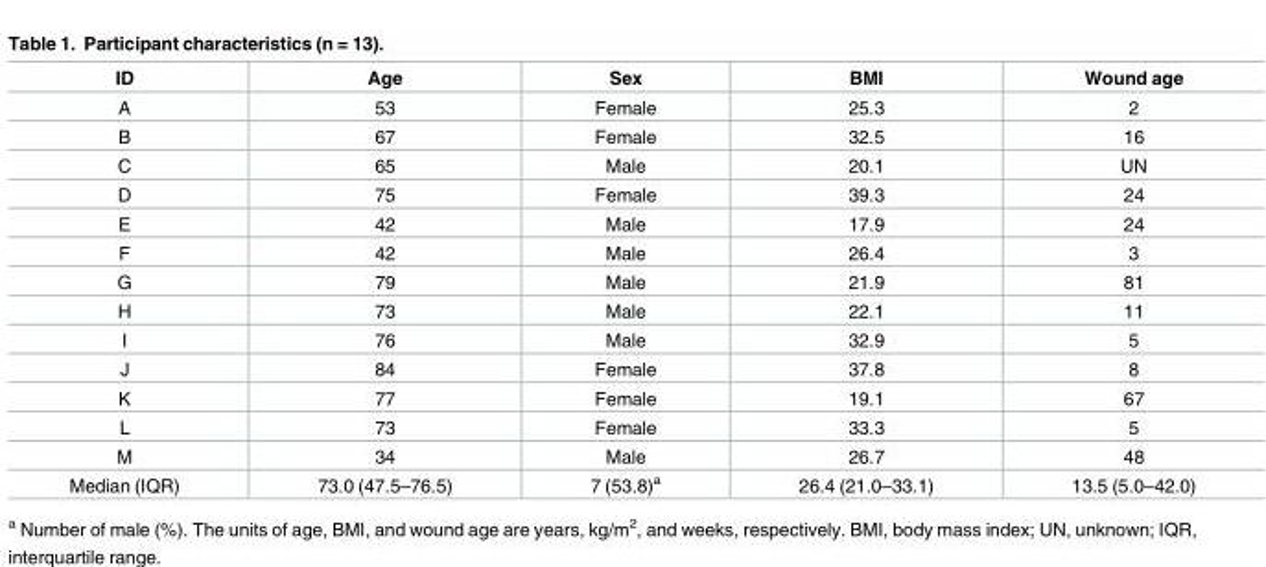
<table><thead><tr><td>ID</td><td>Age</td><td>Sex</td><td>BMI</td><td>Wound age</td></tr></thead><tbody><tr><td>A</td><td>53</td><td>Female</td><td>25.3</td><td>2</td></tr><tr><td>B</td><td>67</td><td>Female</td><td>32.5</td><td>16</td></tr><tr><td>C</td><td>65</td><td>Male</td><td>20.1</td><td>UN</td></tr><tr><td>D</td><td>75</td><td>Female</td><td>39.3</td><td>24</td></tr><tr><td>E</td><td>42</td><td>Male</td><td>17.9</td><td>24</td></tr><tr><td>F</td><td>42</td><td>Male</td><td>26.4</td><td>3</td></tr><tr><td>G</td><td>79</td><td>Male</td><td>21.9</td><td>81</td></tr><tr><td>H</td><td>73</td><td>Male</td><td>22.1</td><td>11</td></tr><tr><td>I</td><td>76</td><td>Male</td><td>32.9</td><td>5</td></tr><tr><td>J</td><td>84</td><td>Female</td><td>37.8</td><td>8</td></tr><tr><td>K</td><td>77</td><td>Female</td><td>19.1</td><td>67</td></tr><tr><td>L</td><td>73</td><td>Female</td><td>33.3</td><td>5</td></tr><tr><td>M</td><td>34</td><td>Male</td><td>26.7</td><td>48</td></tr><tr><td>Median (IQR)</td><td>73.0 (47.5–76.5)</td><td>7 (53.8)<sup>a</sup></td><td>26.4 (21.0–33.1)</td><td>13.5 (5.0–42.0)</td></tr></tbody></table>